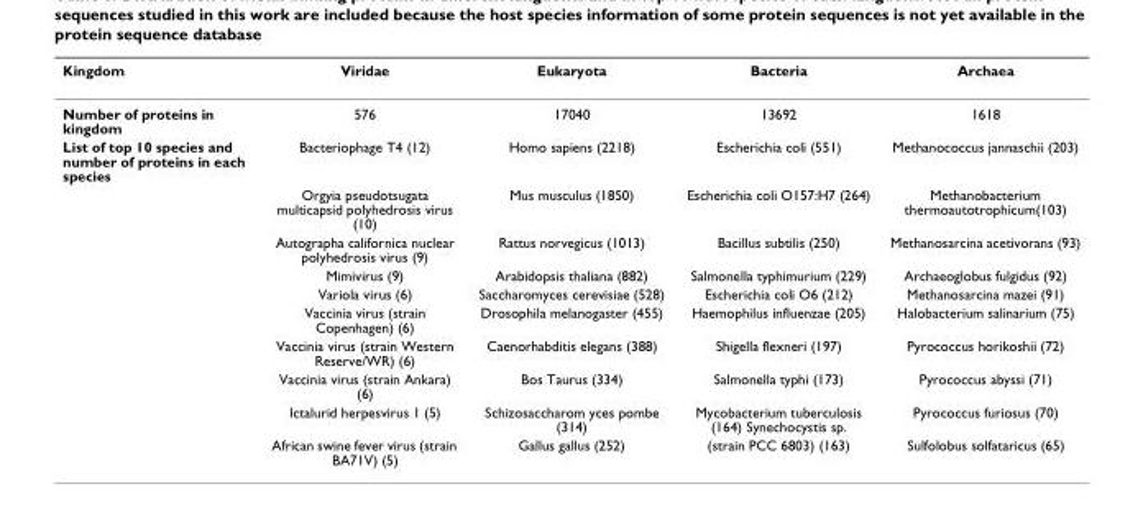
<table><thead><tr><td>Kingdom</td><td>Viridae</td><td>Eukaryota</td><td>Bacteria</td><td>Archaea</td></tr></thead><tbody><tr><td>Number of proteins in kingdom</td><td>576</td><td>17040</td><td>13692</td><td>1618</td></tr><tr><td rowspan="10">List of top 10 species and number of proteins in each species</td><td>Bacteriophage T4 (12)</td><td>Homo sapiens (2218)</td><td>Escherichia coli (551)</td><td>Methanococcus jannaschii (203)</td></tr><tr><td>Orgyia pseudotsugata multicapsid polyhedrosis virus (10)</td><td>Mus musculus (1850)</td><td>Escherichia coli O157:H7 (264)</td><td>Methanobacterium thermoautotrophicum(103)</td></tr><tr><td>Autographa californica nuclear polyhedrosis virus (9)</td><td>Rattus norvegicus (1013)</td><td>Bacillus subtilis (250)</td><td>Methanosarcina acetivorans (93)</td></tr><tr><td>Mimivirus (9)</td><td>Arabidopsis thaliana (882)</td><td>Salmonella typhimurium (229)</td><td>Archaeoglobus fulgidus (92)</td></tr><tr><td>Variola virus (6)</td><td>Saccharomyces cerevisiae (528)</td><td>Escherichia coli O6 (212)</td><td>Methanosarcina mazei (91)</td></tr><tr><td>Vaccinia virus (strain Copenhagen) (6)</td><td>Drosophila melanogaster (455)</td><td>Haemophilus influenzae (205)</td><td>Halobacterium salinarium (75)</td></tr><tr><td>Vaccinia virus (strain Western Reserve/WR) (6)</td><td>Caenorhabditis elegans (388)</td><td>Shigella flexneri (197)</td><td>Pyrococcus horikoshii (72)</td></tr><tr><td>Vaccinia virus (strain Ankara) (6)</td><td>Bos Taurus (334)</td><td>Salmonella typhi (173)</td><td>Pyrococcus abyssi (71)</td></tr><tr><td>Ictalurid herpesvirus 1 (5)</td><td>Schizosaccharom yces pombe (314)</td><td>Mycobacterium tuberculosis (164) Synechocystis sp.</td><td>Pyrococcus furiosus (70)</td></tr><tr><td>African swine fever virus (strain BA71V) (5)</td><td>Gallus gallus (252)</td><td>(strain PCC 6803) (163)</td><td>Sulfolobus solfataricus (65)</td></tr></tbody></table>